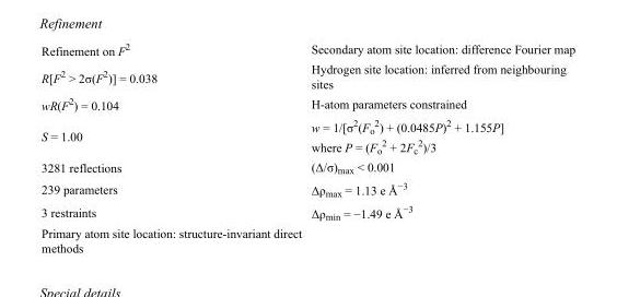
<table><tbody><tr><td>Refinement on F<sup>2</sup></td><td>Secondary atom site location: difference Fourier map</td></tr><tr><td>R[F<sup>2</sup> &gt; 2σ(F<sup>2</sup>)] = 0.038</td><td>Hydrogen site location: inferred from neighbouring sites</td></tr><tr><td>wR(F<sup>2</sup>) = 0.104</td><td>H-atom parameters constrained</td></tr><tr><td>S = 1.00</td><td>w = 1/[σ<sup>2</sup>(F<sub>o</sub> <sup>2</sup>) + (0.0485P)<sup>2</sup> + 1.155P] where P = (F<sub>o</sub> <sup>2</sup> + 2F<sub>c</sub> <sup>2</sup>)/3</td></tr><tr><td>3281 reflections</td><td>(Δ/σ)<sub>max</sub> &lt; 0.001</td></tr><tr><td>239 parameters</td><td>Δρ<sub>max</sub> = 1.13 e Å<sup>−3</sup></td></tr><tr><td>3 restraints</td><td>Δρ<sub>min</sub> = −1.49 e Å<sup>−3</sup></td></tr><tr><td>Primary atom site location: structure-invariant direct methods</td><td></td></tr></tbody></table>